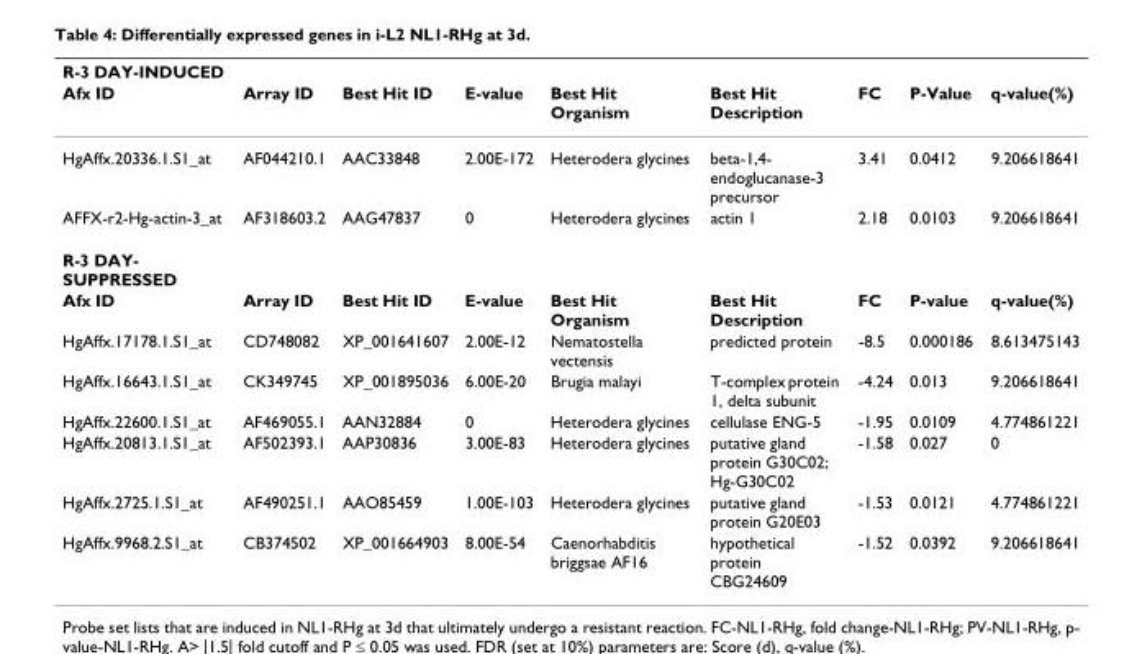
<table><thead><tr><td colspan="9">R-3 DAY-INDUCED</td></tr><tr><td>Afx ID</td><td>Array ID</td><td>Best Hit ID</td><td>E-value</td><td>Best Hit Organism</td><td>Best Hit Description</td><td>FC</td><td>P-Value</td><td>q-value(%)</td></tr></thead><tbody><tr><td>HgAffx.20336.1.S1_at</td><td>AF044210.1</td><td>AAC33848</td><td>2.00E-172</td><td>Heterodera glycines</td><td>beta-1,4- endoglucanase-3 precursor</td><td>3.41</td><td>0.0412</td><td>9.206618641</td></tr><tr><td>AFFX-r2-Hg-actin-3_at</td><td>AF318603.2</td><td>AAG47837</td><td>0</td><td>Heterodera glycines</td><td>actin 1</td><td>2.18</td><td>0.0103</td><td>9.206618641</td></tr><tr><td colspan="9">R-3 DAY- SUPPRESSED</td></tr><tr><td>Afx ID</td><td>Array ID</td><td>Best Hit ID</td><td>E-value</td><td>Best Hit Organism</td><td>Best Hit Description</td><td>FC</td><td>P-value</td><td>q-value(%)</td></tr><tr><td>HgAffx.17178.1.S1_at</td><td>CD748082</td><td>XP_001641607</td><td>2.00E-12</td><td>Nematostella vectensis</td><td>predicted protein</td><td>-8.5</td><td>0.000186</td><td>8.613475143</td></tr><tr><td>HgAffx.16643.1.S1_at</td><td>CK349745</td><td>XP_001895036</td><td>6.00E-20</td><td>Brugia malayi</td><td>T-complex protein 1, delta subunit</td><td>-4.24</td><td>0.013</td><td>9.206618641</td></tr><tr><td>HgAffx.22600.1.S1_at</td><td>AF469055.1</td><td>AAN32884</td><td>0</td><td>Heterodera glycines</td><td>cellulase ENG-5</td><td>-1.95</td><td>0.0109</td><td>4.774861221</td></tr><tr><td>HgAffx.20813.1.S1_at</td><td>AF502393.1</td><td>AAP30836</td><td>3.00E-83</td><td>Heterodera glycines</td><td>putative gland protein G30C02; Hg-G30C02</td><td>-1.58</td><td>0.027</td><td>0</td></tr><tr><td>HgAffx.2725.1.S1_at</td><td>AF490251.1</td><td>AAO85459</td><td>1.00E-103</td><td>Heterodera glycines</td><td>putative gland protein G20E03</td><td>-1.53</td><td>0.0121</td><td>4.774861221</td></tr><tr><td>HgAffx.9968.2.S1_at</td><td>CB374502</td><td>XP_001664903</td><td>8.00E-54</td><td>Caenorhabditis briggsae AF16</td><td>hypothetical protein CBG24609</td><td>-1.52</td><td>0.0392</td><td>9.206618641</td></tr></tbody></table>